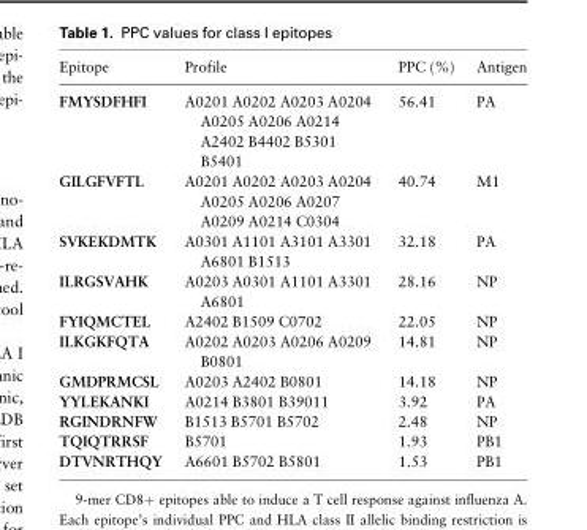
<table><thead><tr><td>Epitope</td><td>Profile</td><td>PPC (%)</td><td>Antigen</td></tr></thead><tbody><tr><td>FMYSDFHFI</td><td>A0201 A0202 A0203 A0204 A0205 A0206 A0214 A2402 B4402 B5301 B5401</td><td>56.41</td><td>PA</td></tr><tr><td>GILGFVFTL</td><td>A0201 A0202 A0203 A0204 A0205 A0206 A0207 A0209 A0214 C0304</td><td>40.74</td><td>M1</td></tr><tr><td>SVKEKDMTK</td><td>A0301 A1101 A3101 A3301 A6801 B1513</td><td>32.18</td><td>PA</td></tr><tr><td>ILRGSVAHK</td><td>A0203 A0301 A1101 A3301 A6801</td><td>28.16</td><td>NP</td></tr><tr><td>FYIQMCTEL</td><td>A2402 B1509 C0702</td><td>22.05</td><td>NP</td></tr><tr><td>ILKGKFQTA</td><td>A0202 A0203 A0206 A0209 B0801</td><td>14.81</td><td>NP</td></tr><tr><td>GMDPRMCSL</td><td>A0203 A2402 B0801</td><td>14.18</td><td>NP</td></tr><tr><td>YYLEKANKI</td><td>A0214 B3801 B39011</td><td>3.92</td><td>PA</td></tr><tr><td>RGINDRNFW</td><td>B1513 B5701 B5702</td><td>2.48</td><td>NP</td></tr><tr><td>TQIQTRRSF</td><td>B5701</td><td>1.93</td><td>PB1</td></tr><tr><td>DTVNRTHQY</td><td>A6601 B5702 B5801</td><td>1.53</td><td>PB1</td></tr></tbody></table>